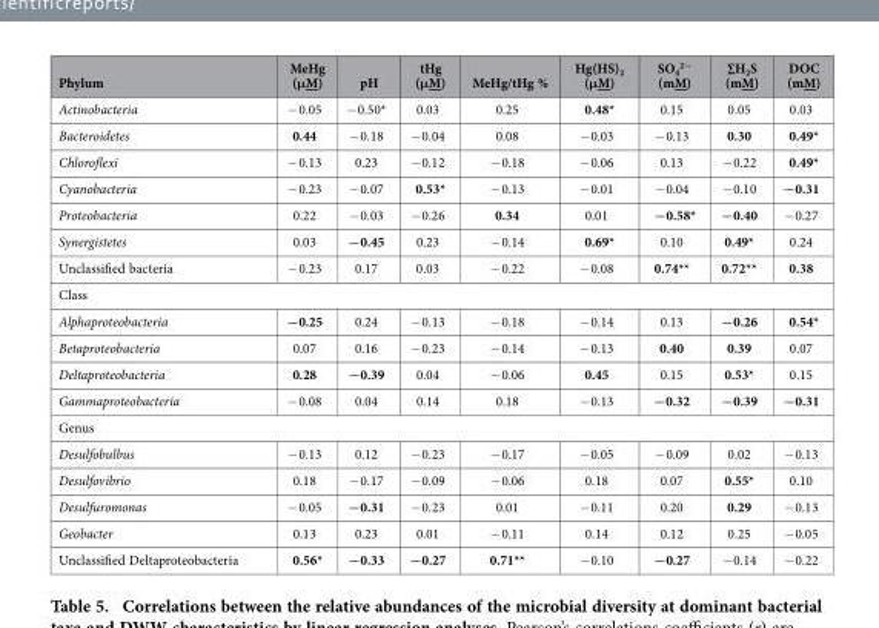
<table><thead><tr><td>Phylum</td><td>MeHg (μM)</td><td>pH</td><td>tHg (μM)</td><td>MeHg/tHg %</td><td>Hg(HS)<sub>2</sub> (μM)</td><td>SO<sub>4</sub> <sup>2−</sup> (mM)</td><td>∑H<sub>2</sub>S (mM)</td><td>DOC (mM)</td></tr></thead><tbody><tr><td>Actinobacteria</td><td>− 0.05</td><td>− 0.50*</td><td>0.03</td><td>0.25</td><td>0.48*</td><td>0.15</td><td>0.05</td><td>0.03</td></tr><tr><td>Bacteroidetes</td><td>0.44</td><td>− 0.18</td><td>− 0.04</td><td>0.08</td><td>− 0.03</td><td>− 0.13</td><td>0.30</td><td>0.49*</td></tr><tr><td>Chloroflexi</td><td>− 0.13</td><td>0.23</td><td>− 0.12</td><td>− 0.18</td><td>− 0.06</td><td>0.13</td><td>− 0.22</td><td>0.49*</td></tr><tr><td>Cyanobacteria</td><td>− 0.23</td><td>− 0.07</td><td>0.53*</td><td>− 0.13</td><td>− 0.01</td><td>− 0.04</td><td>− 0.10</td><td>−0.31</td></tr><tr><td>Proteobacteria</td><td>0.22</td><td>− 0.03</td><td>− 0.26</td><td>0.34</td><td>0.01</td><td>−0.58*</td><td>−0.40</td><td>− 0.27</td></tr><tr><td>Synergistetes</td><td>0.03</td><td>−0.45</td><td>0.23</td><td>− 0.14</td><td>0.69*</td><td>0.10</td><td>0.49*</td><td>0.24</td></tr><tr><td>Unclassified bacteria</td><td>− 0.23</td><td>0.17</td><td>0.03</td><td>− 0.22</td><td>− 0.08</td><td>0.74**</td><td>0.72**</td><td>0.38</td></tr><tr><td colspan="9">Class</td></tr><tr><td>Alphaproteobacteria</td><td>−0.25</td><td>0.24</td><td>− 0.13</td><td>− 0.18</td><td>− 0.14</td><td>0.13</td><td>−0.26</td><td>0.54*</td></tr><tr><td>Betaproteobacteria</td><td>0.07</td><td>0.16</td><td>− 0.23</td><td>− 0.14</td><td>− 0.13</td><td>0.40</td><td>0.39</td><td>0.07</td></tr><tr><td>Deltaproteobacteria</td><td>0.28</td><td>−0.39</td><td>0.04</td><td>− 0.06</td><td>0.45</td><td>0.15</td><td>0.53*</td><td>0.15</td></tr><tr><td>Gammaproteobacteria</td><td>− 0.08</td><td>0.04</td><td>0.14</td><td>0.18</td><td>− 0.13</td><td>−0.32</td><td>−0.39</td><td>−0.31</td></tr><tr><td colspan="9">Genus</td></tr><tr><td>Desulfobulbus</td><td>− 0.13</td><td>0.12</td><td>− 0.23</td><td>− 0.17</td><td>− 0.05</td><td>− 0.09</td><td>0.02</td><td>− 0.13</td></tr><tr><td>Desulfovibrio</td><td>0.18</td><td>− 0.17</td><td>− 0.09</td><td>− 0.06</td><td>0.18</td><td>0.07</td><td>0.55*</td><td>0.10</td></tr><tr><td>Desulfuromonas</td><td>− 0.05</td><td>−0.31</td><td>− 0.23</td><td>0.01</td><td>− 0.11</td><td>0.20</td><td>0.29</td><td>− 0.13</td></tr><tr><td>Geobacter</td><td>0.13</td><td>0.23</td><td>0.01</td><td>− 0.11</td><td>0.14</td><td>0.12</td><td>0.25</td><td>− 0.05</td></tr><tr><td>Unclassified Deltaproteobacteria</td><td>0.56*</td><td>−0.33</td><td>−0.27</td><td>0.71**</td><td>− 0.10</td><td>−0.27</td><td>− 0.14</td><td>− 0.22</td></tr></tbody></table>